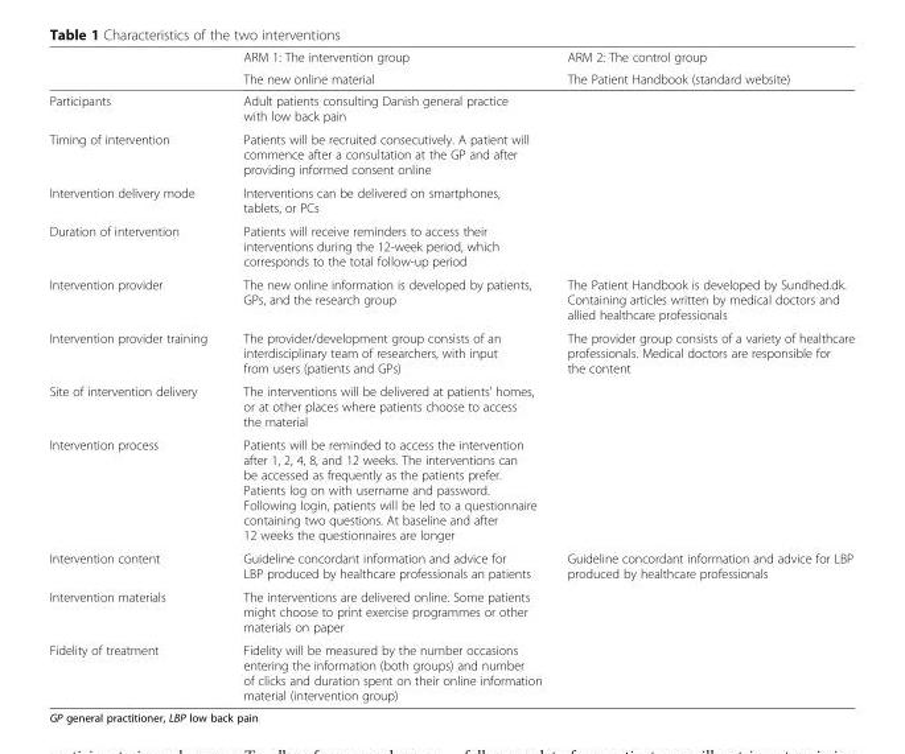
<table><thead><tr><td rowspan="2"></td><td rowspan="2">ARM 1: The intervention group The new online material</td><td rowspan="2">ARM 2: The control group The Patient Handbook (standard website)</td></tr><tr></tr></thead><tbody><tr><td>Participants</td><td colspan="2">Adult patients consulting Danish general practice with low back pain</td></tr><tr><td>Timing of intervention</td><td colspan="2">Patients will be recruited consecutively. A patient will commence after a consultation at the GP and after providing informed consent online</td></tr><tr><td>Intervention delivery mode</td><td colspan="2">Interventions can be delivered on smartphones, tablets, or PCs</td></tr><tr><td>Duration of intervention</td><td colspan="2">Patients will receive reminders to access their interventions during the 12-week period, which corresponds to the total follow-up period</td></tr><tr><td>Intervention provider</td><td>The new online information is developed by patients, GPs, and the research group</td><td>The Patient Handbook is developed by Sundhed.dk. Containing articles written by medical doctors and allied healthcare professionals</td></tr><tr><td>Intervention provider training</td><td>The provider/development group consists of an interdisciplinary team of researchers, with input from users (patients and GPs)</td><td>The provider group consists of a variety of healthcare professionals. Medical doctors are responsible for the content</td></tr><tr><td>Site of intervention delivery</td><td colspan="2">The interventions will be delivered at patients’ homes, or at other places where patients choose to access the material</td></tr><tr><td>Intervention process</td><td colspan="2">Patients will be reminded to access the intervention after 1, 2, 4, 8, and 12 weeks. The interventions can be accessed as frequently as the patients prefer. Patients log on with username and password. Following login, patients will be led to a questionnaire containing two questions. At baseline and after 12 weeks the questionnaires are longer</td></tr><tr><td>Intervention content</td><td>Guideline concordant information and advice for LBP produced by healthcare professionals an patients</td><td>Guideline concordant information and advice for LBP produced by healthcare professionals</td></tr><tr><td>Intervention materials</td><td colspan="2">The interventions are delivered online. Some patients might choose to print exercise programmes or other materials on paper</td></tr><tr><td>Fidelity of treatment</td><td colspan="2">Fidelity will be measured by the number occasions entering the information (both groups) and number of clicks and duration spent on their online information material (intervention group)</td></tr></tbody></table>